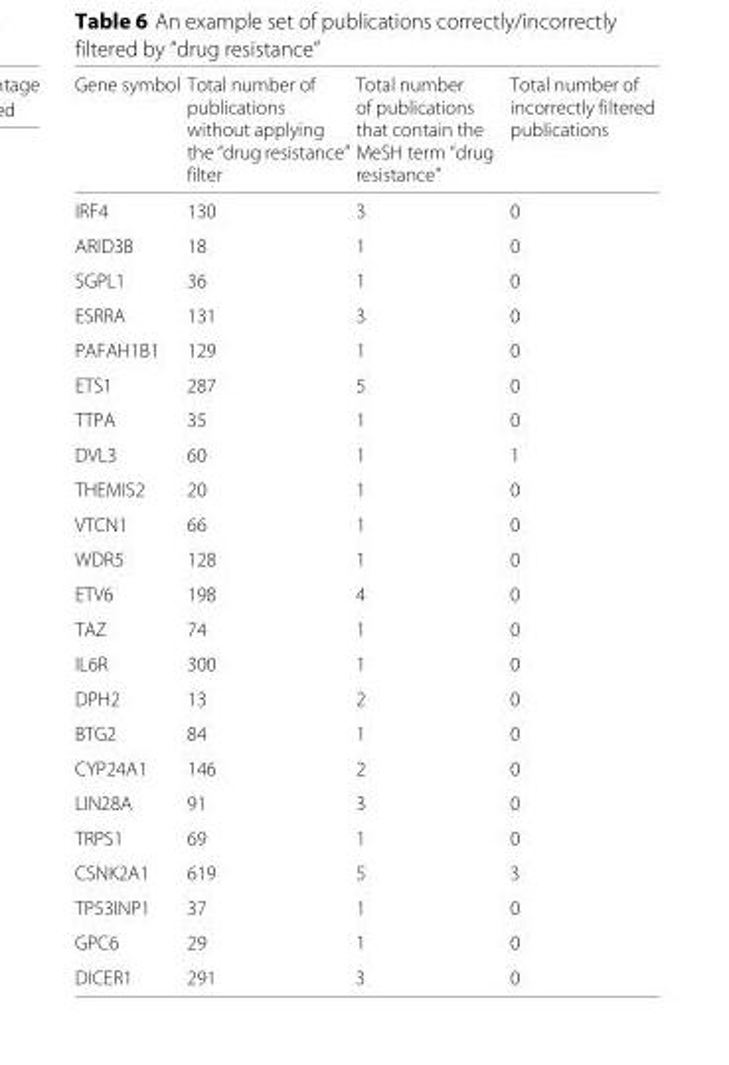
<table><thead><tr><td>Gene symbol</td><td>Total number of publications without applying the “drug resistance” filter</td><td>Total number of publications that contain the MeSH term “drug resistance”</td><td>Total number of incorrectly filtered publications</td></tr></thead><tbody><tr><td>IRF4</td><td>130</td><td>3</td><td>0</td></tr><tr><td>ARID3B</td><td>18</td><td>1</td><td>0</td></tr><tr><td>SGPL1</td><td>36</td><td>1</td><td>0</td></tr><tr><td>ESRRA</td><td>131</td><td>3</td><td>0</td></tr><tr><td>PAFAH1B1</td><td>129</td><td>1</td><td>0</td></tr><tr><td>ETS1</td><td>287</td><td>5</td><td>0</td></tr><tr><td>TTPA</td><td>35</td><td>1</td><td>0</td></tr><tr><td>DVL3</td><td>60</td><td>1</td><td>1</td></tr><tr><td>THEMIS2</td><td>20</td><td>1</td><td>0</td></tr><tr><td>VTCN1</td><td>66</td><td>1</td><td>0</td></tr><tr><td>WDR5</td><td>128</td><td>1</td><td>0</td></tr><tr><td>ETV6</td><td>198</td><td>4</td><td>0</td></tr><tr><td>TAZ</td><td>74</td><td>1</td><td>0</td></tr><tr><td>IL6R</td><td>300</td><td>1</td><td>0</td></tr><tr><td>DPH2</td><td>13</td><td>2</td><td>0</td></tr><tr><td>BTG2</td><td>84</td><td>1</td><td>0</td></tr><tr><td>CYP24A1</td><td>146</td><td>2</td><td>0</td></tr><tr><td>LIN28A</td><td>91</td><td>3</td><td>0</td></tr><tr><td>TRPS1</td><td>69</td><td>1</td><td>0</td></tr><tr><td>CSNK2A1</td><td>619</td><td>5</td><td>3</td></tr><tr><td>TP53INP1</td><td>37</td><td>1</td><td>0</td></tr><tr><td>GPC6</td><td>29</td><td>1</td><td>0</td></tr><tr><td>DICER1</td><td>291</td><td>3</td><td>0</td></tr></tbody></table>